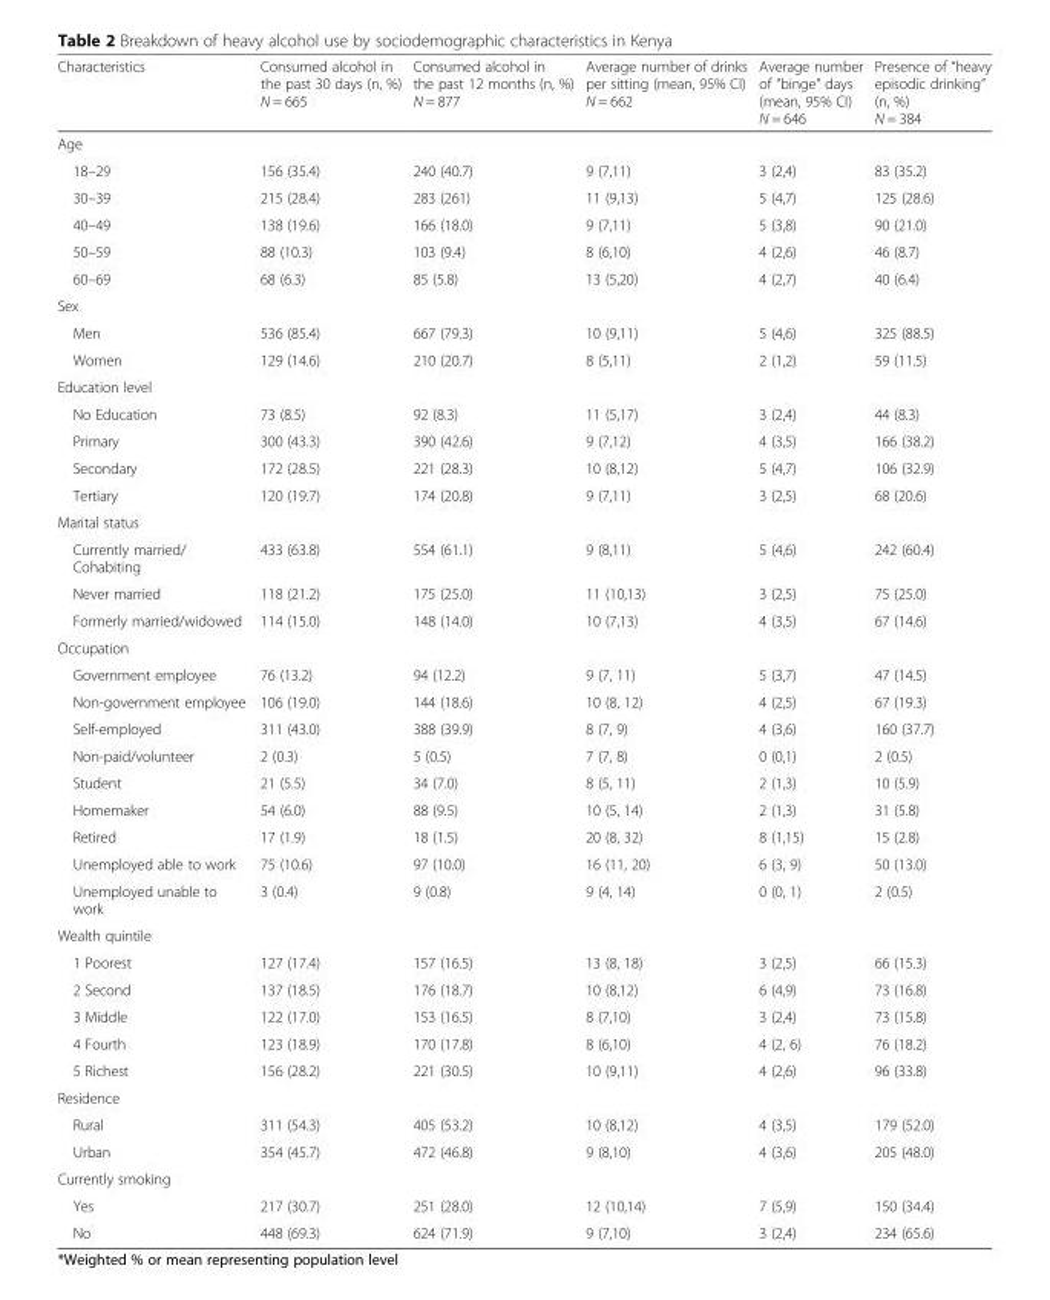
<table><thead><tr><td>Characteristics</td><td>Consumed alcohol in the past 30 days (n, %) N = 665</td><td>Consumed alcohol in the past 12 months (n, %) N = 877</td><td>Average number of drinks per sitting (mean, 95% CI) N = 662</td><td>Average number of “binge” days (mean, 95% CI) N = 646</td><td>Presence of “heavy episodic drinking” (n, %) N = 384</td></tr></thead><tbody><tr><td colspan="6">Age</td></tr><tr><td>18–29</td><td>156 (35.4)</td><td>240 (40.7)</td><td>9 (7,11)</td><td>3 (2,4)</td><td>83 (35.2)</td></tr><tr><td>30–39</td><td>215 (28.4)</td><td>283 (261)</td><td>11 (9,13)</td><td>5 (4,7)</td><td>125 (28.6)</td></tr><tr><td>40–49</td><td>138 (19.6)</td><td>166 (18.0)</td><td>9 (7,11)</td><td>5 (3,8)</td><td>90 (21.0)</td></tr><tr><td>50–59</td><td>88 (10.3)</td><td>103 (9.4)</td><td>8 (6,10)</td><td>4 (2,6)</td><td>46 (8.7)</td></tr><tr><td>60–69</td><td>68 (6.3)</td><td>85 (5.8)</td><td>13 (5,20)</td><td>4 (2,7)</td><td>40 (6.4)</td></tr><tr><td colspan="6">Sex</td></tr><tr><td>Men</td><td>536 (85.4)</td><td>667 (79.3)</td><td>10 (9,11)</td><td>5 (4,6)</td><td>325 (88.5)</td></tr><tr><td>Women</td><td>129 (14.6)</td><td>210 (20.7)</td><td>8 (5,11)</td><td>2 (1,2)</td><td>59 (11.5)</td></tr><tr><td colspan="6">Education level</td></tr><tr><td>No Education</td><td>73 (8.5)</td><td>92 (8.3)</td><td>11 (5,17)</td><td>3 (2,4)</td><td>44 (8.3)</td></tr><tr><td>Primary</td><td>300 (43.3)</td><td>390 (42.6)</td><td>9 (7,12)</td><td>4 (3,5)</td><td>166 (38.2)</td></tr><tr><td>Secondary</td><td>172 (28.5)</td><td>221 (28.3)</td><td>10 (8,12)</td><td>5 (4,7)</td><td>106 (32.9)</td></tr><tr><td>Tertiary</td><td>120 (19.7)</td><td>174 (20.8)</td><td>9 (7,11)</td><td>3 (2,5)</td><td>68 (20.6)</td></tr><tr><td colspan="6">Marital status</td></tr><tr><td>Currently married/ Cohabiting</td><td>433 (63.8)</td><td>554 (61.1)</td><td>9 (8,11)</td><td>5 (4,6)</td><td>242 (60.4)</td></tr><tr><td>Never married</td><td>118 (21.2)</td><td>175 (25.0)</td><td>11 (10,13)</td><td>3 (2,5)</td><td>75 (25.0)</td></tr><tr><td>Formerly married/widowed</td><td>114 (15.0)</td><td>148 (14.0)</td><td>10 (7,13)</td><td>4 (3,5)</td><td>67 (14.6)</td></tr><tr><td colspan="6">Occupation</td></tr><tr><td>Government employee</td><td>76 (13.2)</td><td>94 (12.2)</td><td>9 (7, 11)</td><td>5 (3,7)</td><td>47 (14.5)</td></tr><tr><td>Non-government employee</td><td>106 (19.0)</td><td>144 (18.6)</td><td>10 (8, 12)</td><td>4 (2,5)</td><td>67 (19.3)</td></tr><tr><td>Self-employed</td><td>311 (43.0)</td><td>388 (39.9)</td><td>8 (7, 9)</td><td>4 (3,6)</td><td>160 (37.7)</td></tr><tr><td>Non-paid/volunteer</td><td>2 (0.3)</td><td>5 (0.5)</td><td>7 (7, 8)</td><td>0 (0,1)</td><td>2 (0.5)</td></tr><tr><td>Student</td><td>21 (5.5)</td><td>34 (7.0)</td><td>8 (5, 11)</td><td>2 (1,3)</td><td>10 (5.9)</td></tr><tr><td>Homemaker</td><td>54 (6.0)</td><td>88 (9.5)</td><td>10 (5, 14)</td><td>2 (1,3)</td><td>31 (5.8)</td></tr><tr><td>Retired</td><td>17 (1.9)</td><td>18 (1.5)</td><td>20 (8, 32)</td><td>8 (1,15)</td><td>15 (2.8)</td></tr><tr><td>Unemployed able to work</td><td>75 (10.6)</td><td>97 (10.0)</td><td>16 (11, 20)</td><td>6 (3, 9)</td><td>50 (13.0)</td></tr><tr><td>Unemployed unable to work</td><td>3 (0.4)</td><td>9 (0.8)</td><td>9 (4, 14)</td><td>0 (0, 1)</td><td>2 (0.5)</td></tr><tr><td colspan="6">Wealth quintile</td></tr><tr><td>1 Poorest</td><td>127 (17.4)</td><td>157 (16.5)</td><td>13 (8, 18)</td><td>3 (2,5)</td><td>66 (15.3)</td></tr><tr><td>2 Second</td><td>137 (18.5)</td><td>176 (18.7)</td><td>10 (8,12)</td><td>6 (4,9)</td><td>73 (16.8)</td></tr><tr><td>3 Middle</td><td>122 (17.0)</td><td>153 (16.5)</td><td>8 (7,10)</td><td>3 (2,4)</td><td>73 (15.8)</td></tr><tr><td>4 Fourth</td><td>123 (18.9)</td><td>170 (17.8)</td><td>8 (6,10)</td><td>4 (2, 6)</td><td>76 (18.2)</td></tr><tr><td>5 Richest</td><td>156 (28.2)</td><td>221 (30.5)</td><td>10 (9,11)</td><td>4 (2,6)</td><td>96 (33.8)</td></tr><tr><td colspan="6">Residence</td></tr><tr><td>Rural</td><td>311 (54.3)</td><td>405 (53.2)</td><td>10 (8,12)</td><td>4 (3,5)</td><td>179 (52.0)</td></tr><tr><td>Urban</td><td>354 (45.7)</td><td>472 (46.8)</td><td>9 (8,10)</td><td>4 (3,6)</td><td>205 (48.0)</td></tr><tr><td colspan="6">Currently smoking</td></tr><tr><td>Yes</td><td>217 (30.7)</td><td>251 (28.0)</td><td>12 (10,14)</td><td>7 (5,9)</td><td>150 (34.4)</td></tr><tr><td>No</td><td>448 (69.3)</td><td>624 (71.9)</td><td>9 (7,10)</td><td>3 (2,4)</td><td>234 (65.6)</td></tr></tbody></table>